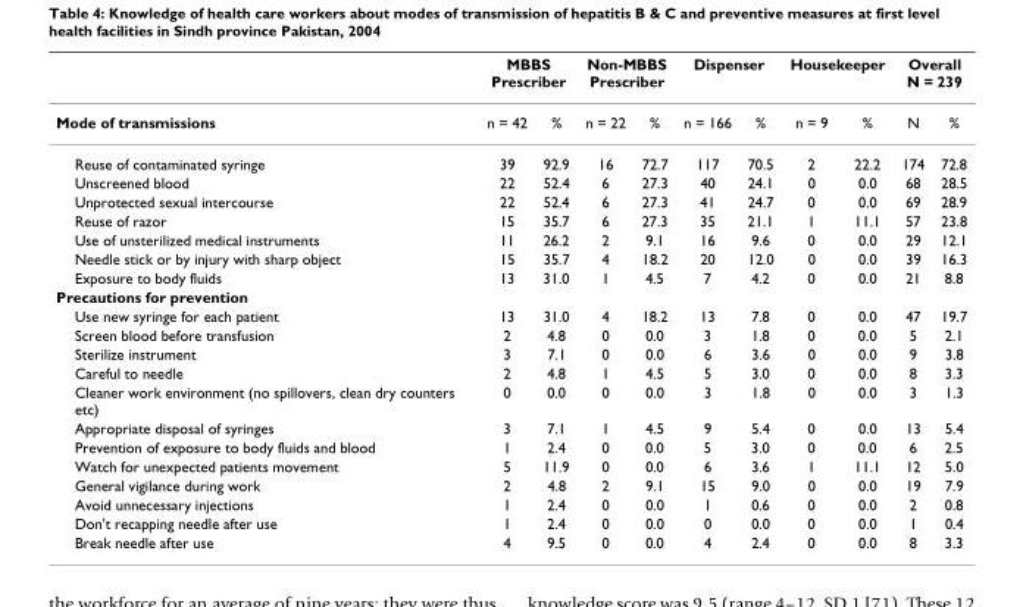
<table><thead><tr><td rowspan="2">Mode of transmissions</td><td colspan="2">MBBS Prescriber</td><td colspan="2">Non-MBBS Prescriber</td><td colspan="2">Dispenser</td><td colspan="2">Housekeeper</td><td colspan="2">Overall N = 239</td></tr><tr><td>n = 42</td><td>%</td><td>n = 22</td><td>%</td><td>n = 166</td><td>%</td><td>n = 9</td><td>%</td><td>N</td><td>%</td></tr></thead><tbody><tr><td>Reuse of contaminated syringe</td><td>39</td><td>92.9</td><td>16</td><td>72.7</td><td>117</td><td>70.5</td><td>2</td><td>22.2</td><td>174</td><td>72.8</td></tr><tr><td>Unscreened blood</td><td>22</td><td>52.4</td><td>6</td><td>27.3</td><td>40</td><td>24.1</td><td>0</td><td>0.0</td><td>68</td><td>28.5</td></tr><tr><td>Unprotected sexual intercourse</td><td>22</td><td>52.4</td><td>6</td><td>27.3</td><td>41</td><td>24.7</td><td>0</td><td>0.0</td><td>69</td><td>28.9</td></tr><tr><td>Reuse of razor</td><td>15</td><td>35.7</td><td>6</td><td>27.3</td><td>35</td><td>21.1</td><td>1</td><td>11.1</td><td>57</td><td>23.8</td></tr><tr><td>Use of unsterilized medical instruments</td><td>11</td><td>26.2</td><td>2</td><td>9.1</td><td>16</td><td>9.6</td><td>0</td><td>0.0</td><td>29</td><td>12.1</td></tr><tr><td>Needle stick or by injury with sharp object</td><td>15</td><td>35.7</td><td>4</td><td>18.2</td><td>20</td><td>12.0</td><td>0</td><td>0.0</td><td>39</td><td>16.3</td></tr><tr><td>Exposure to body fluids</td><td>13</td><td>31.0</td><td>1</td><td>4.5</td><td>7</td><td>4.2</td><td>0</td><td>0.0</td><td>21</td><td>8.8</td></tr><tr><td colspan="11">Precautions for prevention</td></tr><tr><td>Use new syringe for each patient</td><td>13</td><td>31.0</td><td>4</td><td>18.2</td><td>13</td><td>7.8</td><td>0</td><td>0.0</td><td>47</td><td>19.7</td></tr><tr><td>Screen blood before transfusion</td><td>2</td><td>4.8</td><td>0</td><td>0.0</td><td>3</td><td>1.8</td><td>0</td><td>0.0</td><td>5</td><td>2.1</td></tr><tr><td>Sterilize instrument</td><td>3</td><td>7.1</td><td>0</td><td>0.0</td><td>6</td><td>3.6</td><td>0</td><td>0.0</td><td>9</td><td>3.8</td></tr><tr><td>Careful to needle</td><td>2</td><td>4.8</td><td>1</td><td>4.5</td><td>5</td><td>3.0</td><td>0</td><td>0.0</td><td>8</td><td>3.3</td></tr><tr><td>Cleaner work environment (no spillovers, clean dry counters etc)</td><td>0</td><td>0.0</td><td>0</td><td>0.0</td><td>3</td><td>1.8</td><td>0</td><td>0.0</td><td>3</td><td>1.3</td></tr><tr><td>Appropriate disposal of syringes</td><td>3</td><td>7.1</td><td>1</td><td>4.5</td><td>9</td><td>5.4</td><td>0</td><td>0.0</td><td>13</td><td>5.4</td></tr><tr><td>Prevention of exposure to body fluids and blood</td><td>1</td><td>2.4</td><td>0</td><td>0.0</td><td>5</td><td>3.0</td><td>0</td><td>0.0</td><td>6</td><td>2.5</td></tr><tr><td>Watch for unexpected patients movement</td><td>5</td><td>11.9</td><td>0</td><td>0.0</td><td>6</td><td>3.6</td><td>1</td><td>11.1</td><td>12</td><td>5.0</td></tr><tr><td>General vigilance during work</td><td>2</td><td>4.8</td><td>2</td><td>9.1</td><td>15</td><td>9.0</td><td>0</td><td>0.0</td><td>19</td><td>7.9</td></tr><tr><td>Avoid unnecessary injections</td><td>1</td><td>2.4</td><td>0</td><td>0.0</td><td>1</td><td>0.6</td><td>0</td><td>0.0</td><td>2</td><td>0.8</td></tr><tr><td>Don&#x27;t recapping needle after use</td><td>1</td><td>2.4</td><td>0</td><td>0.0</td><td>0</td><td>0.0</td><td>0</td><td>0.0</td><td>1</td><td>0.4</td></tr><tr><td>Break needle after use</td><td>4</td><td>9.5</td><td>0</td><td>0.0</td><td>4</td><td>2.4</td><td>0</td><td>0.0</td><td>8</td><td>3.3</td></tr></tbody></table>